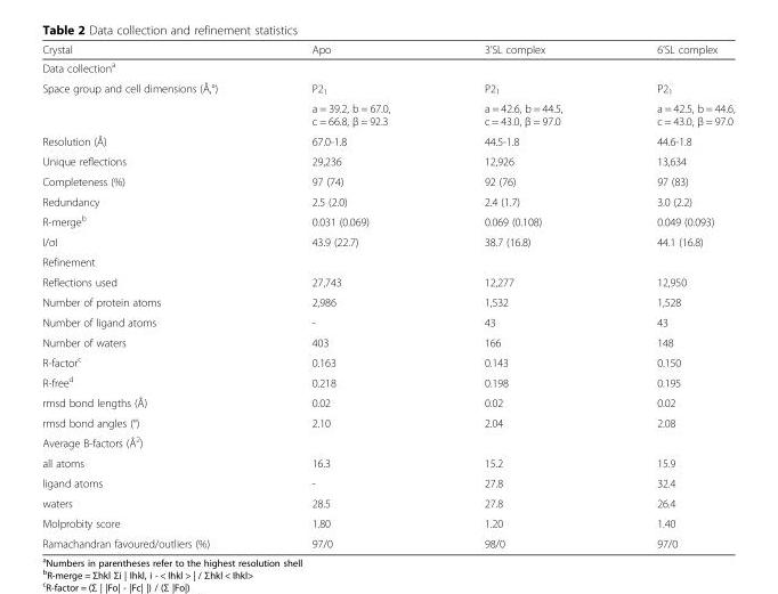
<table><thead><tr><td>Crystal</td><td>Apo</td><td>3’SL complex</td><td>6’SL complex</td></tr></thead><tbody><tr><td colspan="4">Data collection<sup>a</sup></td></tr><tr><td rowspan="2">Space group and cell dimensions (Å,°)</td><td>P2<sub>1</sub></td><td>P2<sub>1</sub></td><td>P2<sub>1</sub></td></tr><tr><td>a = 39.2, b = 67.0, c = 66.8, β = 92.3</td><td>a = 42.6, b = 44.5, c = 43.0, β = 97.0</td><td>a = 42.5, b = 44.6, c = 43.0, β = 97.0</td></tr><tr><td>Resolution (Å)</td><td>67.0-1.8</td><td>44.5-1.8</td><td>44.6-1.8</td></tr><tr><td>Unique reflections</td><td>29,236</td><td>12,926</td><td>13,634</td></tr><tr><td>Completeness (%)</td><td>97 (74)</td><td>92 (76)</td><td>97 (83)</td></tr><tr><td>Redundancy</td><td>2.5 (2.0)</td><td>2.4 (1.7)</td><td>3.0 (2.2)</td></tr><tr><td>R-merge<sup>b</sup></td><td>0.031 (0.069)</td><td>0.069 (0.108)</td><td>0.049 (0.093)</td></tr><tr><td>I/σI</td><td>43.9 (22.7)</td><td>38.7 (16.8)</td><td>44.1 (16.8)</td></tr><tr><td colspan="4">Refinement</td></tr><tr><td>Reflections used</td><td>27,743</td><td>12,277</td><td>12,950</td></tr><tr><td>Number of protein atoms</td><td>2,986</td><td>1,532</td><td>1,528</td></tr><tr><td>Number of ligand atoms</td><td>-</td><td>43</td><td>43</td></tr><tr><td>Number of waters</td><td>403</td><td>166</td><td>148</td></tr><tr><td>R-factor<sup>c</sup></td><td>0.163</td><td>0.143</td><td>0.150</td></tr><tr><td>R-free<sup>d</sup></td><td>0.218</td><td>0.198</td><td>0.195</td></tr><tr><td>rmsd bond lengths (Å)</td><td>0.02</td><td>0.02</td><td>0.02</td></tr><tr><td>rmsd bond angles (°)</td><td>2.10</td><td>2.04</td><td>2.08</td></tr><tr><td colspan="4">Average B-factors (Å<sup>2</sup>)</td></tr><tr><td>all atoms</td><td>16.3</td><td>15.2</td><td>15.9</td></tr><tr><td>ligand atoms</td><td>-</td><td>27.8</td><td>32.4</td></tr><tr><td>waters</td><td>28.5</td><td>27.8</td><td>26.4</td></tr><tr><td>Molprobity score</td><td>1.80</td><td>1.20</td><td>1.40</td></tr><tr><td>Ramachandran favoured/outliers (%)</td><td>97/0</td><td>98/0</td><td>97/0</td></tr></tbody></table>